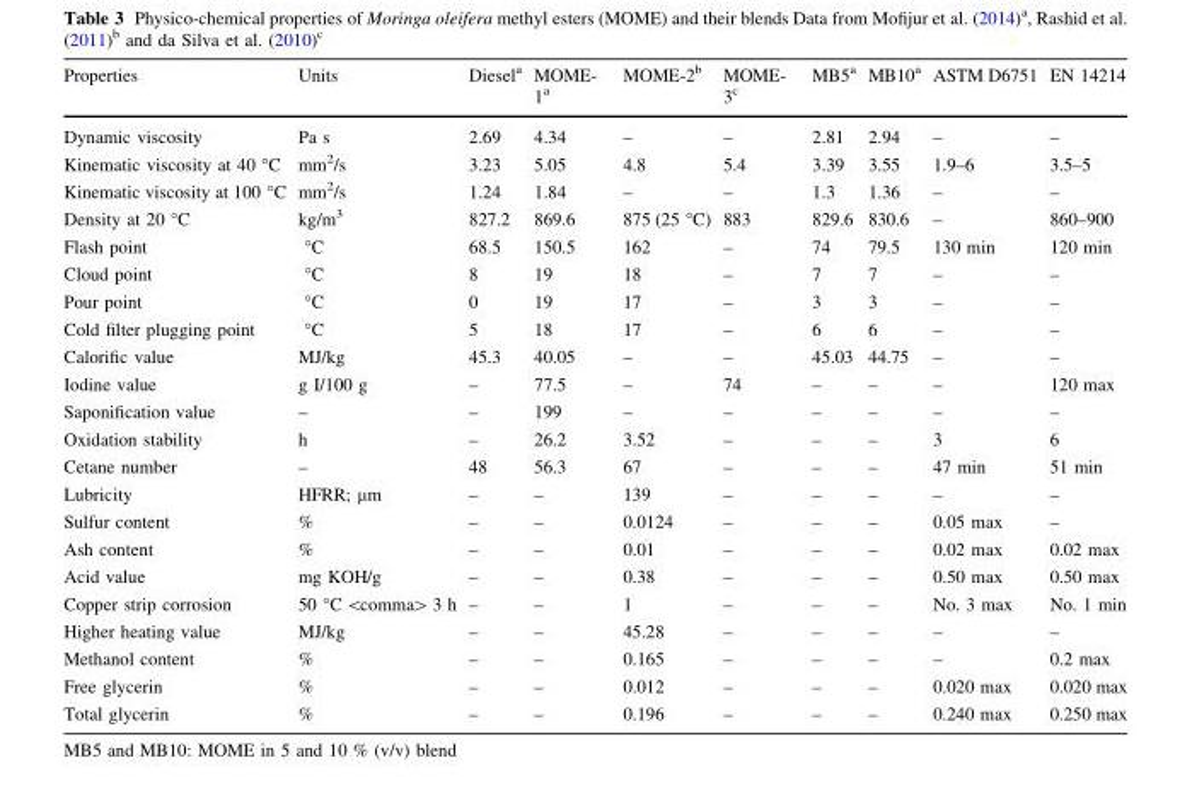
<table><thead><tr><td>Properties</td><td>Units</td><td>Diesel<sup>a</sup></td><td>MOME- 1<sup>a</sup></td><td>MOME-2<sup>b</sup></td><td>MOME- 3<sup>c</sup></td><td>MB5<sup>a</sup></td><td>MB10<sup>a</sup></td><td>ASTM D6751</td><td>EN 14214</td></tr></thead><tbody><tr><td>Dynamic viscosity</td><td>Pa s</td><td>2.69</td><td>4.34</td><td>–</td><td>–</td><td>2.81</td><td>2.94</td><td>–</td><td>–</td></tr><tr><td>Kinematic viscosity at 40 °C</td><td>mm<sup>2</sup>/s</td><td>3.23</td><td>5.05</td><td>4.8</td><td>5.4</td><td>3.39</td><td>3.55</td><td>1.9–6</td><td>3.5–5</td></tr><tr><td>Kinematic viscosity at 100 °C</td><td>mm<sup>2</sup>/s</td><td>1.24</td><td>1.84</td><td>–</td><td>–</td><td>1.3</td><td>1.36</td><td>–</td><td>–</td></tr><tr><td>Density at 20 °C</td><td>kg/m<sup>3</sup></td><td>827.2</td><td>869.6</td><td>875 (25 °C)</td><td>883</td><td>829.6</td><td>830.6</td><td>–</td><td>860–900</td></tr><tr><td>Flash point</td><td>°C</td><td>68.5</td><td>150.5</td><td>162</td><td>–</td><td>74</td><td>79.5</td><td>130 min</td><td>120 min</td></tr><tr><td>Cloud point</td><td>°C</td><td>8</td><td>19</td><td>18</td><td>–</td><td>7</td><td>7</td><td>–</td><td>–</td></tr><tr><td>Pour point</td><td>°C</td><td>0</td><td>19</td><td>17</td><td>–</td><td>3</td><td>3</td><td>–</td><td>–</td></tr><tr><td>Cold filter plugging point</td><td>°C</td><td>5</td><td>18</td><td>17</td><td>–</td><td>6</td><td>6</td><td>–</td><td>–</td></tr><tr><td>Calorific value</td><td>MJ/kg</td><td>45.3</td><td>40.05</td><td>–</td><td>–</td><td>45.03</td><td>44.75</td><td>–</td><td>–</td></tr><tr><td>Iodine value</td><td>g I/100 g</td><td>–</td><td>77.5</td><td>–</td><td>74</td><td>–</td><td>–</td><td>–</td><td>120 max</td></tr><tr><td>Saponification value</td><td>–</td><td>–</td><td>199</td><td>–</td><td>–</td><td>–</td><td>–</td><td>–</td><td>–</td></tr><tr><td>Oxidation stability</td><td>h</td><td>–</td><td>26.2</td><td>3.52</td><td>–</td><td>–</td><td>–</td><td>3</td><td>6</td></tr><tr><td>Cetane number</td><td>–</td><td>48</td><td>56.3</td><td>67</td><td>–</td><td>–</td><td>–</td><td>47 min</td><td>51 min</td></tr><tr><td>Lubricity</td><td>HFRR; μm</td><td>–</td><td>–</td><td>139</td><td>–</td><td>–</td><td>–</td><td>–</td><td>–</td></tr><tr><td>Sulfur content</td><td>%</td><td>–</td><td>–</td><td>0.0124</td><td>–</td><td>–</td><td>–</td><td>0.05 max</td><td>–</td></tr><tr><td>Ash content</td><td>%</td><td>–</td><td>–</td><td>0.01</td><td>–</td><td>–</td><td>–</td><td>0.02 max</td><td>0.02 max</td></tr><tr><td>Acid value</td><td>mg KOH/g</td><td>–</td><td>–</td><td>0.38</td><td>–</td><td>–</td><td>–</td><td>0.50 max</td><td>0.50 max</td></tr><tr><td>Copper strip corrosion</td><td>50 °C &lt;comma&gt; 3 h</td><td>–</td><td>–</td><td>1</td><td>–</td><td>–</td><td>–</td><td>No. 3 max</td><td>No. 1 min</td></tr><tr><td>Higher heating value</td><td>MJ/kg</td><td>–</td><td>–</td><td>45.28</td><td>–</td><td>–</td><td>–</td><td>–</td><td>–</td></tr><tr><td>Methanol content</td><td>%</td><td>–</td><td>–</td><td>0.165</td><td>–</td><td>–</td><td>–</td><td>–</td><td>0.2 max</td></tr><tr><td>Free glycerin</td><td>%</td><td>–</td><td>–</td><td>0.012</td><td>–</td><td>–</td><td>–</td><td>0.020 max</td><td>0.020 max</td></tr><tr><td>Total glycerin</td><td>%</td><td>–</td><td>–</td><td>0.196</td><td>–</td><td>–</td><td>–</td><td>0.240 max</td><td>0.250 max</td></tr></tbody></table>